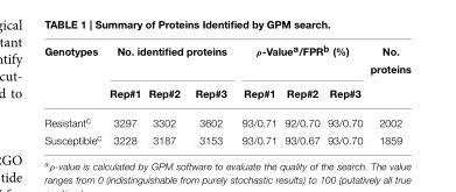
<table><thead><tr><td rowspan="2">Genotypes</td><td colspan="3">No. identified proteins</td><td colspan="3">ρ-Value<sup>a</sup>/FPR<sup>b</sup> (%)</td><td rowspan="2">No. proteins</td></tr><tr><td>Rep#1</td><td>Rep#2</td><td>Rep#3</td><td>Rep#1</td><td>Rep#2</td><td>Rep#3</td></tr></thead><tbody><tr><td>Resistant<sup>c</sup></td><td>3297</td><td>3302</td><td>3602</td><td>93/0.71</td><td>92/0.70</td><td>93/0.70</td><td>2002</td></tr><tr><td>Susceptible<sup>c</sup></td><td>3228</td><td>3187</td><td>3153</td><td>93/0.71</td><td>93/0.67</td><td>93/0.70</td><td>1859</td></tr></tbody></table>